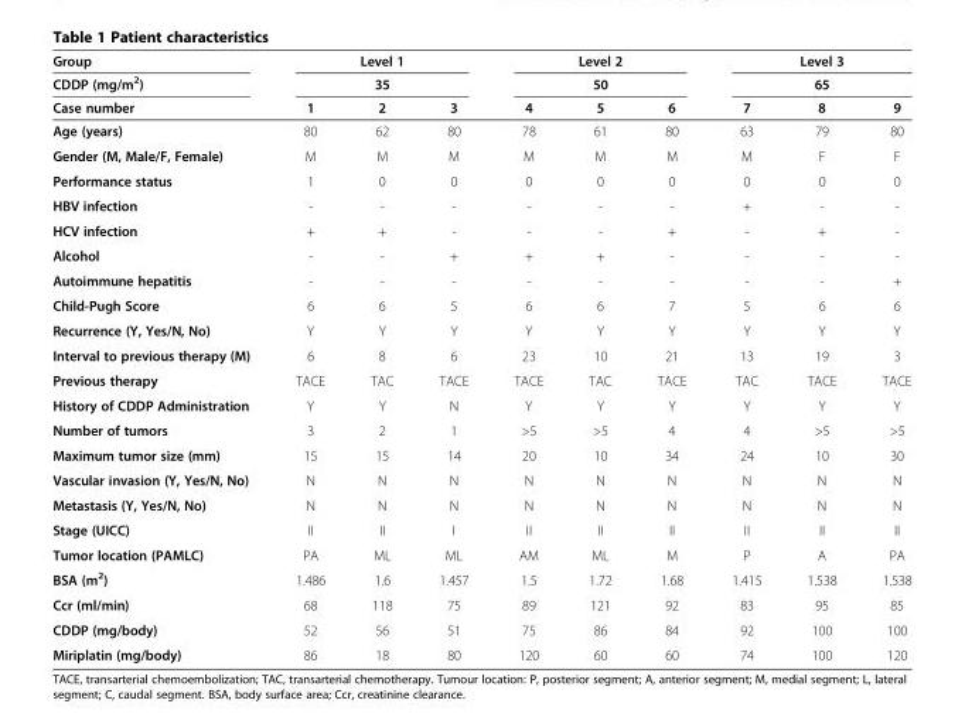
<table><thead><tr><td rowspan="3">Group CDDP (mg/m<sup>2</sup>) Case number</td><td rowspan="2" colspan="3">Level 1 35</td><td rowspan="2" colspan="3">Level 2 50</td><td rowspan="2" colspan="3">Level 3 65</td></tr><tr></tr><tr><td>1</td><td>2</td><td>3</td><td>4</td><td>5</td><td>6</td><td>7</td><td>8</td><td>9</td></tr></thead><tbody><tr><td>Age (years)</td><td>80</td><td>62</td><td>80</td><td>78</td><td>61</td><td>80</td><td>63</td><td>79</td><td>80</td></tr><tr><td>Gender (M, Male/F, Female)</td><td>M</td><td>M</td><td>M</td><td>M</td><td>M</td><td>M</td><td>M</td><td>F</td><td>F</td></tr><tr><td>Performance status</td><td>1</td><td>0</td><td>0</td><td>0</td><td>0</td><td>0</td><td>0</td><td>0</td><td>0</td></tr><tr><td>HBV infection</td><td>-</td><td>-</td><td>-</td><td>-</td><td>-</td><td>-</td><td>+</td><td>-</td><td>-</td></tr><tr><td>HCV infection</td><td>+</td><td>+</td><td>-</td><td>-</td><td>-</td><td>+</td><td>-</td><td>+</td><td>-</td></tr><tr><td>Alcohol</td><td>-</td><td>-</td><td>+</td><td>+</td><td>+</td><td>-</td><td>-</td><td>-</td><td>-</td></tr><tr><td>Autoimmune hepatitis</td><td>-</td><td>-</td><td>-</td><td>-</td><td>-</td><td>-</td><td>-</td><td>-</td><td>+</td></tr><tr><td>Child-Pugh Score</td><td>6</td><td>6</td><td>5</td><td>6</td><td>6</td><td>7</td><td>5</td><td>6</td><td>6</td></tr><tr><td>Recurrence (Y, Yes/N, No)</td><td>Y</td><td>Y</td><td>Y</td><td>Y</td><td>Y</td><td>Y</td><td>Y</td><td>Y</td><td>Y</td></tr><tr><td>Interval to previous therapy (M)</td><td>6</td><td>8</td><td>6</td><td>23</td><td>10</td><td>21</td><td>13</td><td>19</td><td>3</td></tr><tr><td>Previous therapy</td><td>TACE</td><td>TAC</td><td>TACE</td><td>TACE</td><td>TAC</td><td>TACE</td><td>TAC</td><td>TACE</td><td>TACE</td></tr><tr><td>History of CDDP Administration</td><td>Y</td><td>Y</td><td>N</td><td>Y</td><td>Y</td><td>Y</td><td>Y</td><td>Y</td><td>Y</td></tr><tr><td>Number of tumors</td><td>3</td><td>2</td><td>1</td><td>&gt;5</td><td>&gt;5</td><td>4</td><td>4</td><td>&gt;5</td><td>&gt;5</td></tr><tr><td>Maximum tumor size (mm)</td><td>15</td><td>15</td><td>14</td><td>20</td><td>10</td><td>34</td><td>24</td><td>10</td><td>30</td></tr><tr><td>Vascular invasion (Y, Yes/N, No)</td><td>N</td><td>N</td><td>N</td><td>N</td><td>N</td><td>N</td><td>N</td><td>N</td><td>N</td></tr><tr><td>Metastasis (Y, Yes/N, No)</td><td>N</td><td>N</td><td>N</td><td>N</td><td>N</td><td>N</td><td>N</td><td>N</td><td>N</td></tr><tr><td>Stage (UICC)</td><td>II</td><td>II</td><td>I</td><td>II</td><td>II</td><td>II</td><td>II</td><td>II</td><td>II</td></tr><tr><td>Tumor location (PAMLC)</td><td>PA</td><td>ML</td><td>ML</td><td>AM</td><td>ML</td><td>M</td><td>P</td><td>A</td><td>PA</td></tr><tr><td>BSA (m<sup>2</sup>)</td><td>1.486</td><td>1.6</td><td>1.457</td><td>1.5</td><td>1.72</td><td>1.68</td><td>1.415</td><td>1.538</td><td>1.538</td></tr><tr><td>Ccr (ml/min)</td><td>68</td><td>118</td><td>75</td><td>89</td><td>121</td><td>92</td><td>83</td><td>95</td><td>85</td></tr><tr><td>CDDP (mg/body)</td><td>52</td><td>56</td><td>51</td><td>75</td><td>86</td><td>84</td><td>92</td><td>100</td><td>100</td></tr><tr><td>Miriplatin (mg/body)</td><td>86</td><td>18</td><td>80</td><td>120</td><td>60</td><td>60</td><td>74</td><td>100</td><td>120</td></tr></tbody></table>